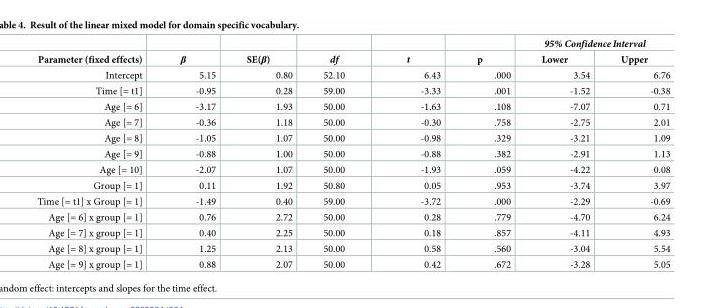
<table><thead><tr><td rowspan="2">Parameter (fixed effects)</td><td rowspan="2">β</td><td rowspan="2">SE(β)</td><td rowspan="2">df</td><td rowspan="2">t</td><td rowspan="2">p</td><td colspan="2">95% Confidence Interval</td></tr><tr><td>Lower</td><td>Upper</td></tr></thead><tbody><tr><td>Intercept</td><td>5.15</td><td>0.80</td><td>52.10</td><td>6.43</td><td>.000</td><td>3.54</td><td>6.76</td></tr><tr><td>Time [= t1]</td><td>-0.95</td><td>0.28</td><td>59.00</td><td>-3.33</td><td>.001</td><td>-1.52</td><td>-0.38</td></tr><tr><td>Age [= 6]</td><td>-3.17</td><td>1.93</td><td>50.00</td><td>-1.63</td><td>.108</td><td>-7.07</td><td>0.71</td></tr><tr><td>Age [= 7]</td><td>-0.36</td><td>1.18</td><td>50.00</td><td>-0.30</td><td>.758</td><td>-2.75</td><td>2.01</td></tr><tr><td>Age [= 8]</td><td>-1.05</td><td>1.07</td><td>50.00</td><td>-0.98</td><td>.329</td><td>-3.21</td><td>1.09</td></tr><tr><td>Age [= 9]</td><td>-0.88</td><td>1.00</td><td>50.00</td><td>-0.88</td><td>.382</td><td>-2.91</td><td>1.13</td></tr><tr><td>Age [= 10]</td><td>-2.07</td><td>1.07</td><td>50.00</td><td>-1.93</td><td>.059</td><td>-4.22</td><td>0.08</td></tr><tr><td>Group [= 1]</td><td>0.11</td><td>1.92</td><td>50.80</td><td>0.05</td><td>.953</td><td>-3.74</td><td>3.97</td></tr><tr><td>Time [= t1] x Group [= 1]</td><td>-1.49</td><td>0.40</td><td>59.00</td><td>-3.72</td><td>.000</td><td>-2.29</td><td>-0.69</td></tr><tr><td>Age [= 6] x group [= 1]</td><td>0.76</td><td>2.72</td><td>50.00</td><td>0.28</td><td>.779</td><td>-4.70</td><td>6.24</td></tr><tr><td>Age [= 7] x group [= 1]</td><td>0.40</td><td>2.25</td><td>50.00</td><td>0.18</td><td>.857</td><td>-4.11</td><td>4.93</td></tr><tr><td>Age [= 8] x group [= 1]</td><td>1.25</td><td>2.13</td><td>50.00</td><td>0.58</td><td>.560</td><td>-3.04</td><td>5.54</td></tr><tr><td>Age [= 9] x group [= 1]</td><td>0.88</td><td>2.07</td><td>50.00</td><td>0.42</td><td>.672</td><td>-3.28</td><td>5.05</td></tr></tbody></table>